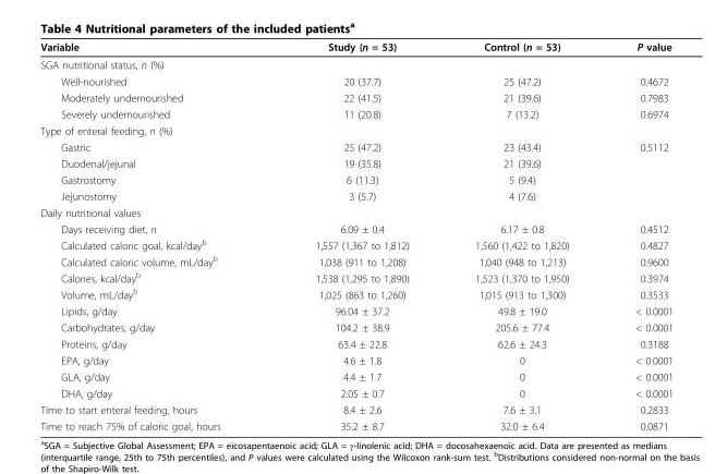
<table><thead><tr><td>Variable</td><td>Study (n = 53)</td><td>Control (n = 53)</td><td>P value</td></tr></thead><tbody><tr><td colspan="4">SGA nutritional status, n (%)</td></tr><tr><td>Well-nourished</td><td>20 (37.7)</td><td>25 (47.2)</td><td>0.4672</td></tr><tr><td>Moderately undernourished</td><td>22 (41.5)</td><td>21 (39.6)</td><td>0.7983</td></tr><tr><td>Severely undernourished</td><td>11 (20.8)</td><td>7 (13.2)</td><td>0.6974</td></tr><tr><td colspan="4">Type of enteral feeding, n (%)</td></tr><tr><td>Gastric</td><td>25 (47.2)</td><td>23 (43.4)</td><td>0.5112</td></tr><tr><td>Duodenal/jejunal</td><td>19 (35.8)</td><td>21 (39.6)</td><td></td></tr><tr><td>Gastrostomy</td><td>6 (11.3)</td><td>5 (9.4)</td><td></td></tr><tr><td>Jejunostomy</td><td>3 (5.7)</td><td>4 (7.6)</td><td></td></tr><tr><td colspan="4">Daily nutritional values</td></tr><tr><td>Days receiving diet, n</td><td>6.09 ± 0.4</td><td>6.17 ± 0.8</td><td>0.4512</td></tr><tr><td>Calculated caloric goal, kcal/day<sup>b</sup></td><td>1,557 (1,367 to 1,812)</td><td>1,560 (1,422 to 1,820)</td><td>0.4827</td></tr><tr><td>Calculated caloric volume, mL/day<sup>b</sup></td><td>1,038 (911 to 1,208)</td><td>1,040 (948 to 1,213)</td><td>0.9600</td></tr><tr><td>Calories, kcal/day<sup>b</sup></td><td>1,538 (1,295 to 1,890)</td><td>1,523 (1,370 to 1,950)</td><td>0.3974</td></tr><tr><td>Volume, mL/day<sup>b</sup></td><td>1,025 (863 to 1,260)</td><td>1,015 (913 to 1,300)</td><td>0.3533</td></tr><tr><td>Lipids, g/day</td><td>96.04 ± 37.2</td><td>49.8 ± 19.0</td><td>&lt; 0.0001</td></tr><tr><td>Carbohydrates, g/day</td><td>104.2 ± 38.9</td><td>205.6 ± 77.4</td><td>&lt; 0.0001</td></tr><tr><td>Proteins, g/day</td><td>63.4 ± 22.8</td><td>62.6 ± 24.3</td><td>0.3188</td></tr><tr><td>EPA, g/day</td><td>4.6 ± 1.8</td><td>0</td><td>&lt; 0.0001</td></tr><tr><td>GLA, g/day</td><td>4.4 ± 1.7</td><td>0</td><td>&lt; 0.0001</td></tr><tr><td>DHA, g/day</td><td>2.05 ± 0.7</td><td>0</td><td>&lt; 0.0001</td></tr><tr><td>Time to start enteral feeding, hours</td><td>8.4 ± 2.6</td><td>7.6 ± 3.1</td><td>0.2833</td></tr><tr><td>Time to reach 75% of caloric goal, hours</td><td>35.2 ± 8.7</td><td>32.0 ± 6.4</td><td>0.0871</td></tr></tbody></table>